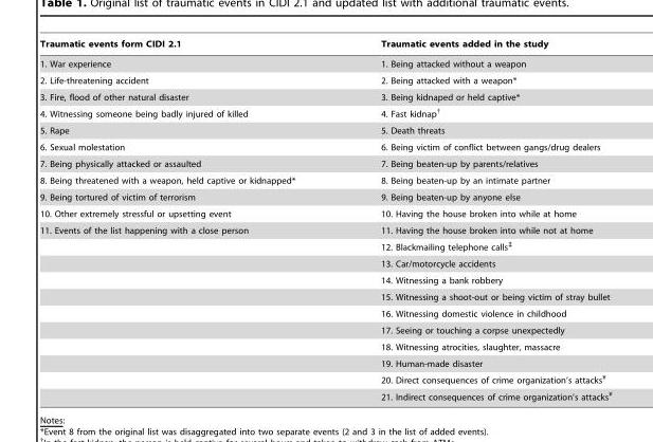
<table><thead><tr><td>Traumatic events form CIDI 2.1</td><td>Traumatic events added in the study</td></tr></thead><tbody><tr><td>1. War experience</td><td>1. Being attacked without a weapon</td></tr><tr><td>2. Life-threatening accident</td><td>2. Being attacked with a weapon*</td></tr><tr><td>3. Fire, flood of other natural disaster</td><td>3. Being kidnaped or held captive*</td></tr><tr><td>4. Witnessing someone being badly injured of killed</td><td>4. Fast kidnap†</td></tr><tr><td>5. Rape</td><td>5. Death threats</td></tr><tr><td>6. Sexual molestation</td><td>6. Being victim of conflict between gangs/drug dealers</td></tr><tr><td>7. Being physically attacked or assaulted</td><td>7. Being beaten-up by parents/relatives</td></tr><tr><td>8. Being threatened with a weapon, held captive or kidnapped*</td><td>8. Being beaten-up by an intimate partner</td></tr><tr><td>9. Being tortured of victim of terrorism</td><td>9. Being beaten-up by anyone else</td></tr><tr><td>10. Other extremely stressful or upsetting event</td><td>10. Having the house broken into while at home</td></tr><tr><td rowspan="11">11. Events of the list happening with a close person</td><td>11. Having the house broken into while not at home</td></tr><tr><td>12. Blackmailing telephone calls‡</td></tr><tr><td>13. Car/motorcycle accidents</td></tr><tr><td>14. Witnessing a bank robbery</td></tr><tr><td>15. Witnessing a shoot-out or being victim of stray bullet</td></tr><tr><td>16. Witnessing domestic violence in childhood</td></tr><tr><td>17. Seeing or touching a corpse unexpectedly</td></tr><tr><td>18. Witnessing atrocities, slaughter, massacre</td></tr><tr><td>19. Human-made disaster</td></tr><tr><td>20. Direct consequences of crime organization’s attacks¥</td></tr><tr><td>21. Indirect consequences of crime organization’s attacks¥</td></tr></tbody></table>